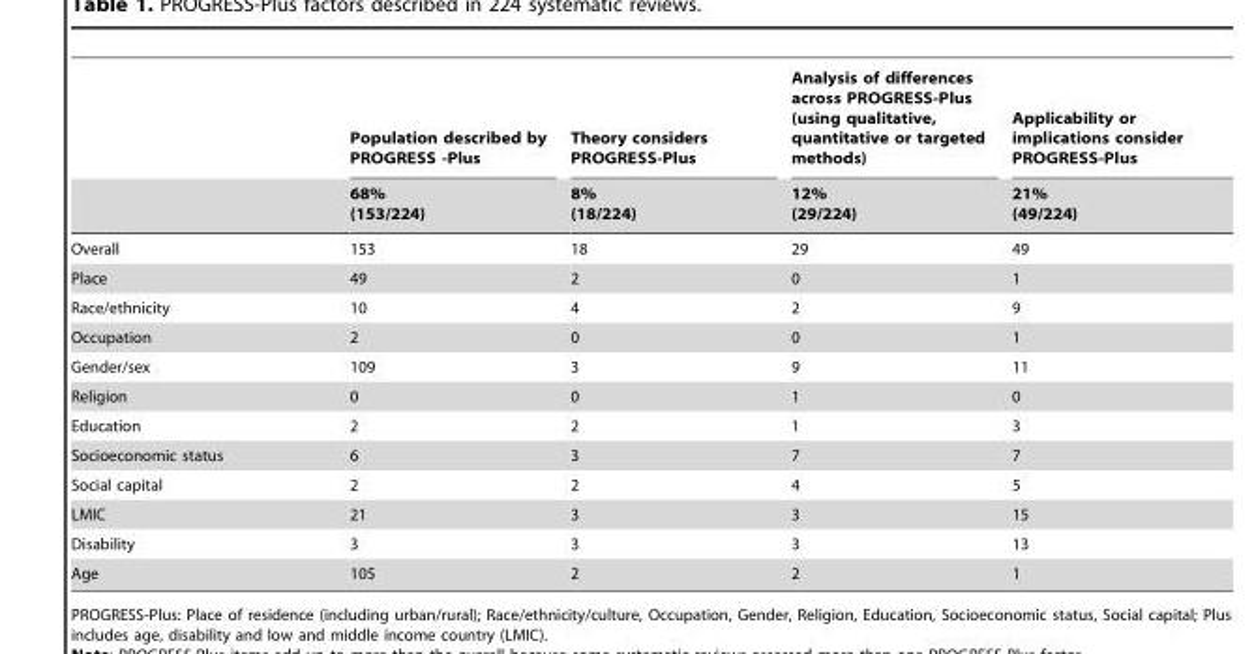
<table><thead><tr><td rowspan="2"></td><td rowspan="2">Population described by PROGRESS -Plus 68% (153/224)</td><td rowspan="2">Theory considers PROGRESS-Plus 8% (18/224)</td><td rowspan="2">Analysis of differences across PROGRESS-Plus (using qualitative, quantitative or targeted methods) 12% (29/224)</td><td rowspan="2">Applicability or implications consider PROGRESS-Plus 21% (49/224)</td></tr><tr></tr></thead><tbody><tr><td>Overall</td><td>153</td><td>18</td><td>29</td><td>49</td></tr><tr><td>Place</td><td>49</td><td>2</td><td>0</td><td>1</td></tr><tr><td>Race/ethnicity</td><td>10</td><td>4</td><td>2</td><td>9</td></tr><tr><td>Occupation</td><td>2</td><td>0</td><td>0</td><td>1</td></tr><tr><td>Gender/sex</td><td>109</td><td>3</td><td>9</td><td>11</td></tr><tr><td>Religion</td><td>0</td><td>0</td><td>1</td><td>0</td></tr><tr><td>Education</td><td>2</td><td>2</td><td>1</td><td>3</td></tr><tr><td>Socioeconomic status</td><td>6</td><td>3</td><td>7</td><td>7</td></tr><tr><td>Social capital</td><td>2</td><td>2</td><td>4</td><td>5</td></tr><tr><td>LMIC</td><td>21</td><td>3</td><td>3</td><td>15</td></tr><tr><td>Disability</td><td>3</td><td>3</td><td>3</td><td>13</td></tr><tr><td>Age</td><td>105</td><td>2</td><td>2</td><td>1</td></tr></tbody></table>